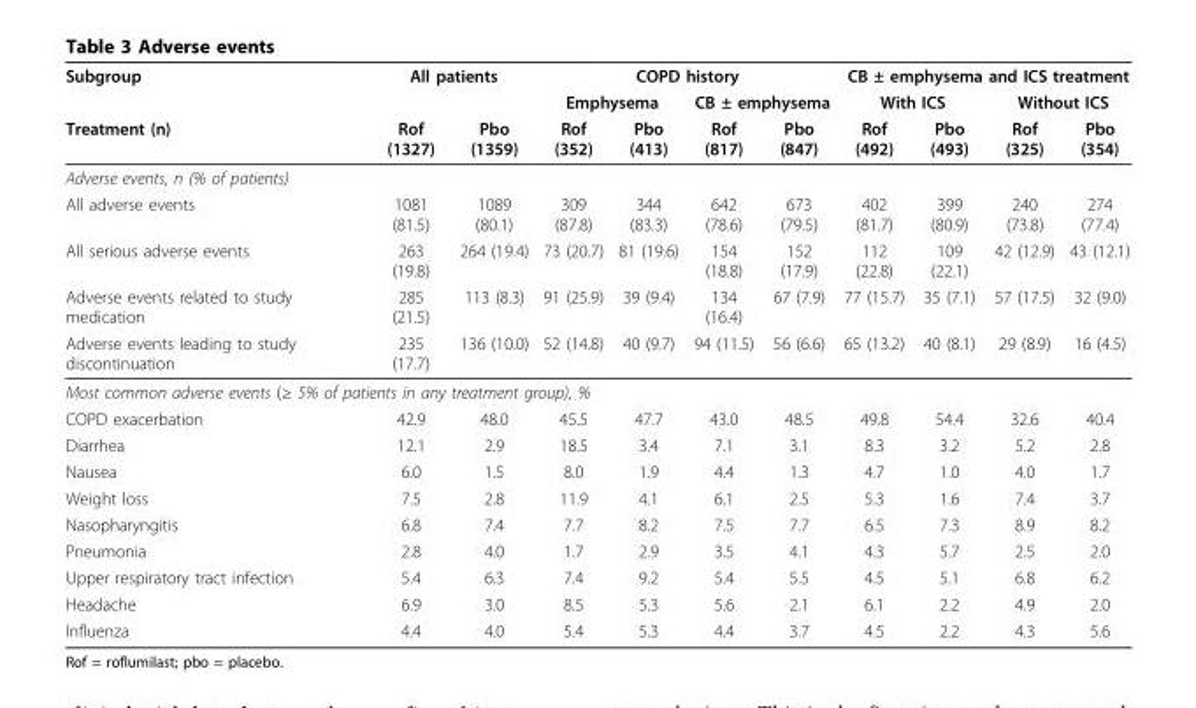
<table><thead><tr><td rowspan="3">Subgroup Treatment (n)</td><td colspan="2">All patients</td><td colspan="4">COPD history</td><td colspan="4">CB ± emphysema and ICS treatment</td></tr><tr><td rowspan="2">Rof (1327)</td><td rowspan="2">Pbo (1359)</td><td colspan="2">Emphysema</td><td colspan="2">CB ± emphysema</td><td colspan="2">With ICS</td><td colspan="2">Without ICS</td></tr><tr><td>Rof (352)</td><td>Pbo (413)</td><td>Rof (817)</td><td>Pbo (847)</td><td>Rof (492)</td><td>Pbo (493)</td><td>Rof (325)</td><td>Pbo (354)</td></tr></thead><tbody><tr><td colspan="11">Adverse events, n (% of patients)</td></tr><tr><td>All adverse events</td><td>1081 (81.5)</td><td>1089 (80.1)</td><td>309 (87.8)</td><td>344 (83.3)</td><td>642 (78.6)</td><td>673 (79.5)</td><td>402 (81.7)</td><td>399 (80.9)</td><td>240 (73.8)</td><td>274 (77.4)</td></tr><tr><td>All serious adverse events</td><td>263 (19.8)</td><td>264 (19.4)</td><td>73 (20.7)</td><td>81 (19.6)</td><td>154 (18.8)</td><td>152 (17.9)</td><td>112 (22.8)</td><td>109 (22.1)</td><td>42 (12.9)</td><td>43 (12.1)</td></tr><tr><td>Adverse events related to study medication</td><td>285 (21.5)</td><td>113 (8.3)</td><td>91 (25.9)</td><td>39 (9.4)</td><td>134 (16.4)</td><td>67 (7.9)</td><td>77 (15.7)</td><td>35 (7.1)</td><td>57 (17.5)</td><td>32 (9.0)</td></tr><tr><td>Adverse events leading to study discontinuation</td><td>235 (17.7)</td><td>136 (10.0)</td><td>52 (14.8)</td><td>40 (9.7)</td><td>94 (11.5)</td><td>56 (6.6)</td><td>65 (13.2)</td><td>40 (8.1)</td><td>29 (8.9)</td><td>16 (4.5)</td></tr><tr><td colspan="11">Most common adverse events (≥ 5% of patients in any treatment group), %</td></tr><tr><td>COPD exacerbation</td><td>42.9</td><td>48.0</td><td>45.5</td><td>47.7</td><td>43.0</td><td>48.5</td><td>49.8</td><td>54.4</td><td>32.6</td><td>40.4</td></tr><tr><td>Diarrhea</td><td>12.1</td><td>2.9</td><td>18.5</td><td>3.4</td><td>7.1</td><td>3.1</td><td>8.3</td><td>3.2</td><td>5.2</td><td>2.8</td></tr><tr><td>Nausea</td><td>6.0</td><td>1.5</td><td>8.0</td><td>1.9</td><td>4.4</td><td>1.3</td><td>4.7</td><td>1.0</td><td>4.0</td><td>1.7</td></tr><tr><td>Weight loss</td><td>7.5</td><td>2.8</td><td>11.9</td><td>4.1</td><td>6.1</td><td>2.5</td><td>5.3</td><td>1.6</td><td>7.4</td><td>3.7</td></tr><tr><td>Nasopharyngitis</td><td>6.8</td><td>7.4</td><td>7.7</td><td>8.2</td><td>7.5</td><td>7.7</td><td>6.5</td><td>7.3</td><td>8.9</td><td>8.2</td></tr><tr><td>Pneumonia</td><td>2.8</td><td>4.0</td><td>1.7</td><td>2.9</td><td>3.5</td><td>4.1</td><td>4.3</td><td>5.7</td><td>2.5</td><td>2.0</td></tr><tr><td>Upper respiratory tract infection</td><td>5.4</td><td>6.3</td><td>7.4</td><td>9.2</td><td>5.4</td><td>5.5</td><td>4.5</td><td>5.1</td><td>6.8</td><td>6.2</td></tr><tr><td>Headache</td><td>6.9</td><td>3.0</td><td>8.5</td><td>5.3</td><td>5.6</td><td>2.1</td><td>6.1</td><td>2.2</td><td>4.9</td><td>2.0</td></tr><tr><td>Influenza</td><td>4.4</td><td>4.0</td><td>5.4</td><td>5.3</td><td>4.4</td><td>3.7</td><td>4.5</td><td>2.2</td><td>4.3</td><td>5.6</td></tr></tbody></table>